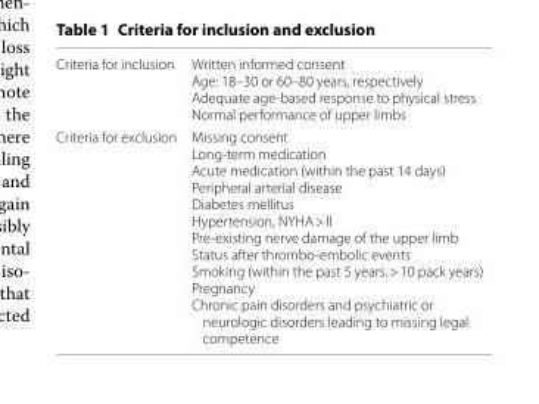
<table><tbody><tr><td>Criteria for inclusion</td><td>Written informed consent Age: 18–30 or 60–80 years, respectively Adequate age‑based response to physical stress Normal performance of upper limbs</td></tr><tr><td>Criteria for exclusion</td><td>Missing consent Long‑term medication Acute medication (within the past 14 days) Peripheral arterial disease Diabetes mellitus Hypertension, NYHA &gt; II Pre‑existing nerve damage of the upper limb Status after thrombo‑embolic events Smoking (within the past 5 years, &gt; 10 pack years) Pregnancy Chronic pain disorders and psychiatric or neurologic disorders leading to missing legal competence</td></tr></tbody></table>